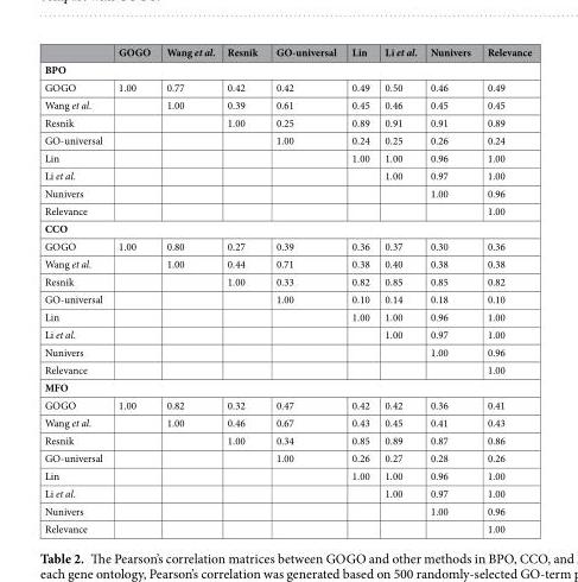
<table><thead><tr><td></td><td>GOGO</td><td>Wang et al.</td><td>Resnik</td><td>GO-universal</td><td>Lin</td><td>Li et al.</td><td>Nunivers</td><td>Relevance</td></tr></thead><tbody><tr><td colspan="9">BPO</td></tr><tr><td>GOGO</td><td>1.00</td><td>0.77</td><td>0.42</td><td>0.42</td><td>0.49</td><td>0.50</td><td>0.46</td><td>0.49</td></tr><tr><td>Wang et al.</td><td></td><td>1.00</td><td>0.39</td><td>0.61</td><td>0.45</td><td>0.46</td><td>0.45</td><td>0.45</td></tr><tr><td>Resnik</td><td></td><td></td><td>1.00</td><td>0.25</td><td>0.89</td><td>0.91</td><td>0.91</td><td>0.89</td></tr><tr><td>GO-universal</td><td></td><td></td><td></td><td>1.00</td><td>0.24</td><td>0.25</td><td>0.26</td><td>0.24</td></tr><tr><td>Lin</td><td></td><td></td><td></td><td></td><td>1.00</td><td>1.00</td><td>0.96</td><td>1.00</td></tr><tr><td>Li et al.</td><td></td><td></td><td></td><td></td><td></td><td>1.00</td><td>0.97</td><td>1.00</td></tr><tr><td>Nunivers</td><td></td><td></td><td></td><td></td><td></td><td></td><td>1.00</td><td>0.96</td></tr><tr><td>Relevance</td><td></td><td></td><td></td><td></td><td></td><td></td><td></td><td>1.00</td></tr><tr><td colspan="9">CCO</td></tr><tr><td>GOGO</td><td>1.00</td><td>0.80</td><td>0.27</td><td>0.39</td><td>0.36</td><td>0.37</td><td>0.30</td><td>0.36</td></tr><tr><td>Wang et al.</td><td></td><td>1.00</td><td>0.44</td><td>0.71</td><td>0.38</td><td>0.40</td><td>0.38</td><td>0.38</td></tr><tr><td>Resnik</td><td></td><td></td><td>1.00</td><td>0.33</td><td>0.82</td><td>0.85</td><td>0.85</td><td>0.82</td></tr><tr><td>GO-universal</td><td></td><td></td><td></td><td>1.00</td><td>0.10</td><td>0.14</td><td>0.18</td><td>0.10</td></tr><tr><td>Lin</td><td></td><td></td><td></td><td></td><td>1.00</td><td>1.00</td><td>0.96</td><td>1.00</td></tr><tr><td>Li et al.</td><td></td><td></td><td></td><td></td><td></td><td>1.00</td><td>0.97</td><td>1.00</td></tr><tr><td>Nunivers</td><td></td><td></td><td></td><td></td><td></td><td></td><td>1.00</td><td>0.96</td></tr><tr><td>Relevance</td><td></td><td></td><td></td><td></td><td></td><td></td><td></td><td>1.00</td></tr><tr><td colspan="9">MFO</td></tr><tr><td>GOGO</td><td>1.00</td><td>0.82</td><td>0.32</td><td>0.47</td><td>0.42</td><td>0.42</td><td>0.36</td><td>0.41</td></tr><tr><td>Wang et al.</td><td></td><td>1.00</td><td>0.46</td><td>0.67</td><td>0.43</td><td>0.45</td><td>0.41</td><td>0.43</td></tr><tr><td>Resnik</td><td></td><td></td><td>1.00</td><td>0.34</td><td>0.85</td><td>0.89</td><td>0.87</td><td>0.86</td></tr><tr><td>GO-universal</td><td></td><td></td><td></td><td>1.00</td><td>0.26</td><td>0.27</td><td>0.28</td><td>0.26</td></tr><tr><td>Lin</td><td></td><td></td><td></td><td></td><td>1.00</td><td>1.00</td><td>0.96</td><td>1.00</td></tr><tr><td>Li et al.</td><td></td><td></td><td></td><td></td><td></td><td>1.00</td><td>0.97</td><td>1.00</td></tr><tr><td>Nunivers</td><td></td><td></td><td></td><td></td><td></td><td></td><td>1.00</td><td>0.96</td></tr><tr><td>Relevance</td><td></td><td></td><td></td><td></td><td></td><td></td><td></td><td>1.00</td></tr></tbody></table>